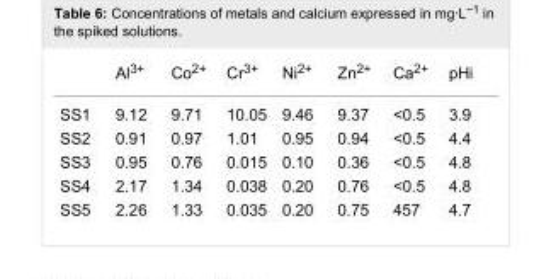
<table><thead><tr><td></td><td>Al<sup>3+</sup></td><td>Co<sup>2+</sup></td><td>Cr<sup>3+</sup></td><td>Ni<sup>2+</sup></td><td>Zn<sup>2+</sup></td><td>Ca<sup>2+</sup></td><td>pHi</td></tr></thead><tbody><tr><td>SS1</td><td>9.12</td><td>9.71</td><td>10.05</td><td>9.46</td><td>9.37</td><td>&lt;0.5</td><td>3.9</td></tr><tr><td>SS2</td><td>0.91</td><td>0.97</td><td>1.01</td><td>0.95</td><td>0.94</td><td>&lt;0.5</td><td>4.4</td></tr><tr><td>SS3</td><td>0.95</td><td>0.76</td><td>0.015</td><td>0.10</td><td>0.36</td><td>&lt;0.5</td><td>4.8</td></tr><tr><td>SS4</td><td>2.17</td><td>1.34</td><td>0.038</td><td>0.20</td><td>0.76</td><td>&lt;0.5</td><td>4.8</td></tr><tr><td>SS5</td><td>2.26</td><td>1.33</td><td>0.035</td><td>0.20</td><td>0.75</td><td>457</td><td>4.7</td></tr></tbody></table>